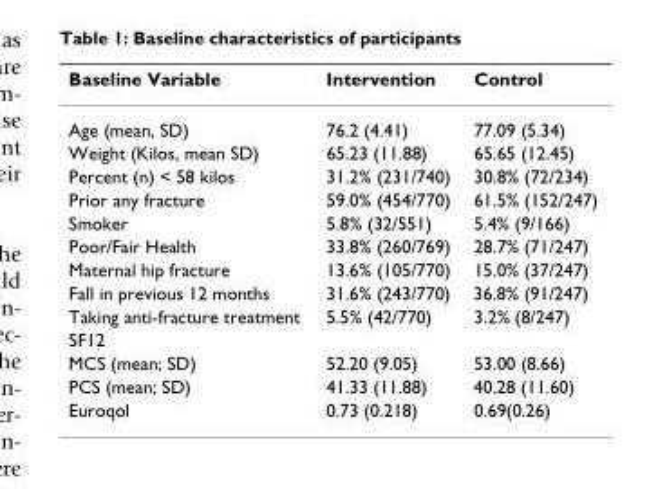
<table><thead><tr><td>Baseline Variable</td><td>Intervention</td><td>Control</td></tr></thead><tbody><tr><td>Age (mean, SD)</td><td>76.2 (4.41)</td><td>77.09 (5.34)</td></tr><tr><td>Weight (Kilos, mean SD)</td><td>65.23 (11.88)</td><td>65.65 (12.45)</td></tr><tr><td>Percent (n) &lt; 58 kilos</td><td>31.2% (231/740)</td><td>30.8% (72/234)</td></tr><tr><td>Prior any fracture</td><td>59.0% (454/770)</td><td>61.5% (152/247)</td></tr><tr><td>Smoker</td><td>5.8% (32/551)</td><td>5.4% (9/166)</td></tr><tr><td>Poor/Fair Health</td><td>33.8% (260/769)</td><td>28.7% (71/247)</td></tr><tr><td>Maternal hip fracture</td><td>13.6% (105/770)</td><td>15.0% (37/247)</td></tr><tr><td>Fall in previous 12 months</td><td>31.6% (243/770)</td><td>36.8% (91/247)</td></tr><tr><td>Taking anti-fracture treatment</td><td>5.5% (42/770)</td><td>3.2% (8/247)</td></tr><tr><td colspan="3">SF12</td></tr><tr><td>MCS (mean; SD)</td><td>52.20 (9.05)</td><td>53.00 (8.66)</td></tr><tr><td>PCS (mean; SD)</td><td>41.33 (11.88)</td><td>40.28 (11.60)</td></tr><tr><td>Euroqol</td><td>0.73 (0.218)</td><td>0.69(0.26)</td></tr></tbody></table>